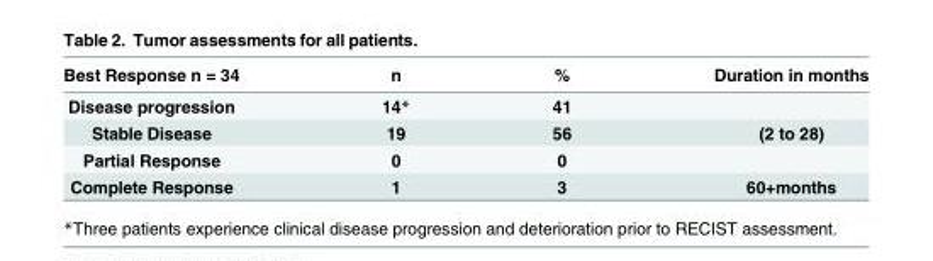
<table><thead><tr><td>Best Response n = 34</td><td>n</td><td>%</td><td>Duration in months</td></tr></thead><tbody><tr><td>Disease progression</td><td>14*</td><td>41</td><td></td></tr><tr><td>Stable Disease</td><td>19</td><td>56</td><td>(2 to 28)</td></tr><tr><td>Partial Response</td><td>0</td><td>0</td><td></td></tr><tr><td>Complete Response</td><td>1</td><td>3</td><td>60+months</td></tr></tbody></table>